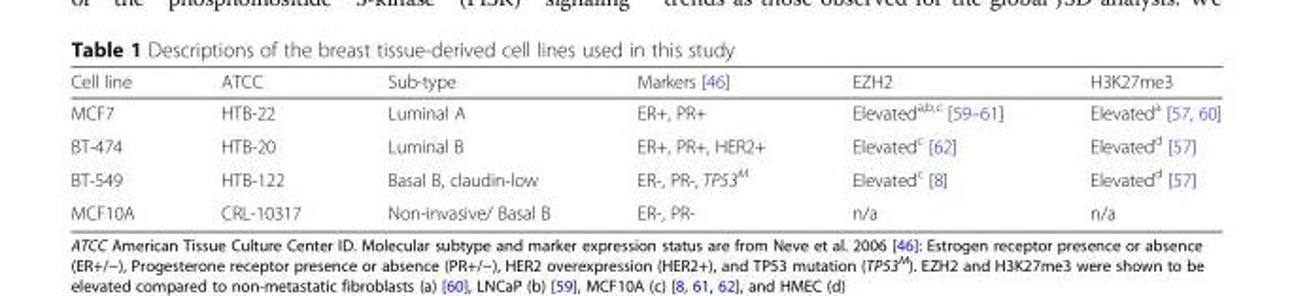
<table><thead><tr><td>Cell line</td><td>ATCC</td><td>Sub-type</td><td>Markers [46]</td><td>EZH2</td><td>H3K27me3</td></tr></thead><tbody><tr><td>MCF7</td><td>HTB-22</td><td>Luminal A</td><td>ER+, PR+</td><td>Elevated<sup>a,b,c</sup> [59–61]</td><td>Elevated<sup>a</sup> [57, 60]</td></tr><tr><td>BT-474</td><td>HTB-20</td><td>Luminal B</td><td>ER+, PR+, HER2+</td><td>Elevated<sup>c</sup> [62]</td><td>Elevated<sup>d</sup> [57]</td></tr><tr><td>BT-549</td><td>HTB-122</td><td>Basal B, claudin-low</td><td>ER-, PR-, TP53<sup>M</sup></td><td>Elevated<sup>c</sup> [8]</td><td>Elevated<sup>d</sup> [57]</td></tr><tr><td>MCF10A</td><td>CRL-10317</td><td>Non-invasive/ Basal B</td><td>ER-, PR-</td><td>n/a</td><td>n/a</td></tr></tbody></table>